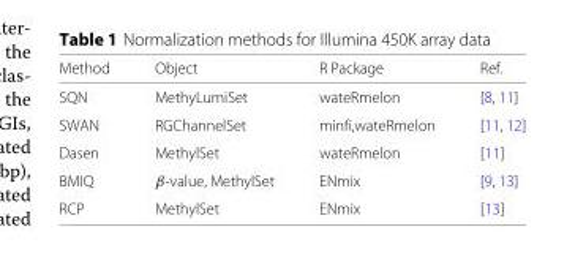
<table><thead><tr><td>Method</td><td>Object</td><td>R Package</td><td>Ref.</td></tr></thead><tbody><tr><td>SQN</td><td>MethyLumiSet</td><td>wateRmelon</td><td>[8, 11]</td></tr><tr><td>SWAN</td><td>RGChannelSet</td><td>minfi,wateRmelon</td><td>[11, 12]</td></tr><tr><td>Dasen</td><td>MethylSet</td><td>wateRmelon</td><td>[11]</td></tr><tr><td>BMIQ</td><td>β-value, MethylSet</td><td>ENmix</td><td>[9, 13]</td></tr><tr><td>RCP</td><td>MethylSet</td><td>ENmix</td><td>[13]</td></tr></tbody></table>